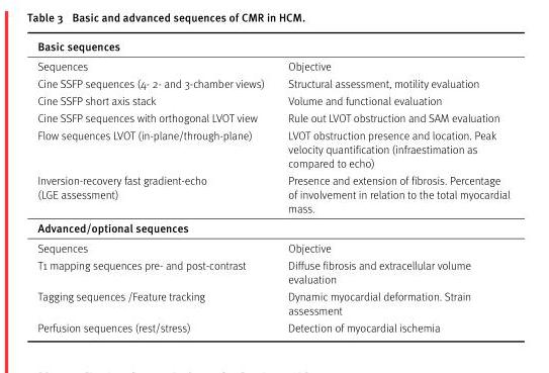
<table><tbody><tr><td colspan="2">Basic sequences</td></tr><tr><td>Sequences</td><td>Objective</td></tr><tr><td>Cine SSFP sequences (4- 2- and 3-chamber views)</td><td>Structural assessment, motility evaluation</td></tr><tr><td>Cine SSFP short axis stack</td><td>Volume and functional evaluation</td></tr><tr><td>Cine SSFP sequences with orthogonal LVOT view</td><td>Rule out LVOT obstruction and SAM evaluation</td></tr><tr><td>Flow sequences LVOT (in-plane/through-plane)</td><td>LVOT obstruction presence and location. Peak velocity quantification (infraestimation as compared to echo)</td></tr><tr><td>Inversion-recovery fast gradient-echo (LGE assessment)</td><td>Presence and extension of fibrosis. Percentage of involvement in relation to the total myocardial mass.</td></tr><tr><td colspan="2">Advanced/optional sequences</td></tr><tr><td>Sequences</td><td>Objective</td></tr><tr><td>T1 mapping sequences pre- and post-contrast</td><td>Diffuse fibrosis and extracellular volume evaluation</td></tr><tr><td>Tagging sequences /Feature tracking</td><td>Dynamic myocardial deformation. Strain assessment</td></tr><tr><td>Perfusion sequences (rest/stress)</td><td>Detection of myocardial ischemia</td></tr></tbody></table>